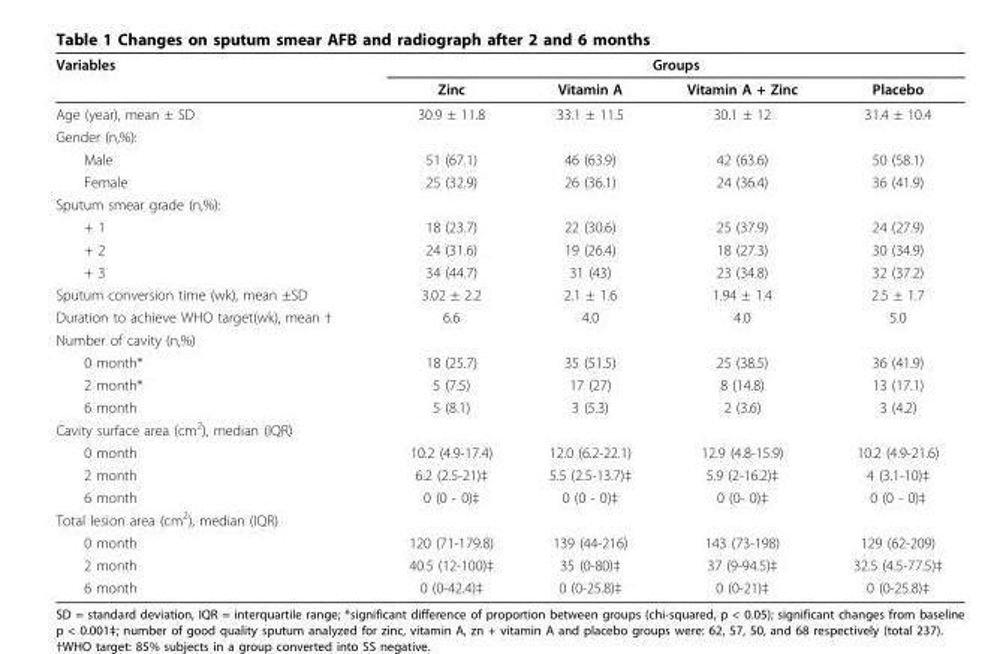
<table><thead><tr><td rowspan="2">Variables</td><td colspan="4">Groups</td></tr><tr><td>Zinc</td><td>Vitamin A</td><td>Vitamin A + Zinc</td><td>Placebo</td></tr></thead><tbody><tr><td>Age (year), mean ± SD</td><td>30.9 ± 11.8</td><td>33.1 ± 11.5</td><td>30.1 ± 12</td><td>31.4 ± 10.4</td></tr><tr><td colspan="5">Gender (n,%):</td></tr><tr><td>Male</td><td>51 (67.1)</td><td>46 (63.9)</td><td>42 (63.6)</td><td>50 (58.1)</td></tr><tr><td>Female</td><td>25 (32.9)</td><td>26 (36.1)</td><td>24 (36.4)</td><td>36 (41.9)</td></tr><tr><td colspan="5">Sputum smear grade (n,%):</td></tr><tr><td>+ 1</td><td>18 (23.7)</td><td>22 (30.6)</td><td>25 (37.9)</td><td>24 (27.9)</td></tr><tr><td>+ 2</td><td>24 (31.6)</td><td>19 (26.4)</td><td>18 (27.3)</td><td>30 (34.9)</td></tr><tr><td>+ 3</td><td>34 (44.7)</td><td>31 (43)</td><td>23 (34.8)</td><td>32 (37.2)</td></tr><tr><td>Sputum conversion time (wk), mean ±SD</td><td>3.02 ± 2.2</td><td>2.1 ± 1.6</td><td>1.94 ± 1.4</td><td>2.5 ± 1.7</td></tr><tr><td>Duration to achieve WHO target(wk), mean †</td><td>6.6</td><td>4.0</td><td>4.0</td><td>5.0</td></tr><tr><td colspan="5">Number of cavity (n,%)</td></tr><tr><td>0 month*</td><td>18 (25.7)</td><td>35 (51.5)</td><td>25 (38.5)</td><td>36 (41.9)</td></tr><tr><td>2 month*</td><td>5 (7.5)</td><td>17 (27)</td><td>8 (14.8)</td><td>13 (17.1)</td></tr><tr><td>6 month</td><td>5 (8.1)</td><td>3 (5.3)</td><td>2 (3.6)</td><td>3 (4.2)</td></tr><tr><td colspan="5">Cavity surface area (cm<sup>2</sup>), median (IQR)</td></tr><tr><td>0 month</td><td>10.2 (4.9-17.4)</td><td>12.0 (6.2-22.1)</td><td>12.9 (4.8-15.9)</td><td>10.2 (4.9-21.6)</td></tr><tr><td>2 month</td><td>6.2 (2.5-21)‡</td><td>5.5 (2.5-13.7)‡</td><td>5.9 (2-16.2)‡</td><td>4 (3.1-10)‡</td></tr><tr><td>6 month</td><td>0 (0 - 0)‡</td><td>0 (0 - 0)‡</td><td>0 (0- 0)‡</td><td>0 (0 - 0)‡</td></tr><tr><td colspan="5">Total lesion area (cm<sup>2</sup>), median (IQR)</td></tr><tr><td>0 month</td><td>120 (71-179.8)</td><td>139 (44-216)</td><td>143 (73-198)</td><td>129 (62-209)</td></tr><tr><td>2 month</td><td>40.5 (12-100)‡</td><td>35 (0-80)‡</td><td>37 (9-94.5)‡</td><td>32.5 (4.5-77.5)‡</td></tr><tr><td>6 month</td><td>0 (0-42.4)‡</td><td>0 (0-25.8)‡</td><td>0 (0-21)‡</td><td>0 (0-25.8)‡</td></tr></tbody></table>